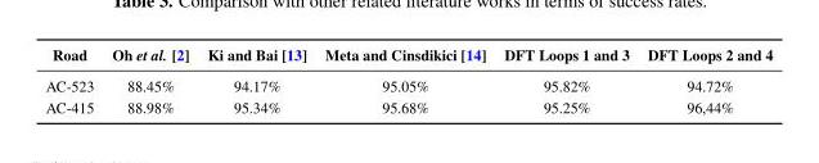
<table><thead><tr><td>Road</td><td>Oh et al. [2]</td><td>Ki and Bai [13]</td><td>Meta and Cinsdikici [14]</td><td>DFT Loops 1 and 3</td><td>DFT Loops 2 and 4</td></tr></thead><tbody><tr><td>AC-523</td><td>88.45%</td><td>94.17%</td><td>95.05%</td><td>95.82%</td><td>94.72%</td></tr><tr><td>AC-415</td><td>88.98%</td><td>95.34%</td><td>95.68%</td><td>95.25%</td><td>96,44%</td></tr></tbody></table>